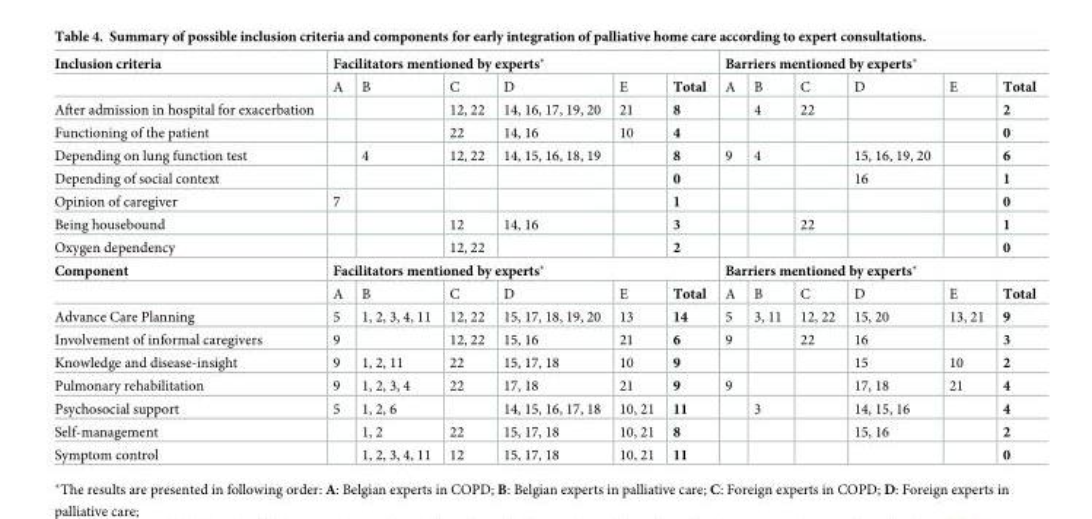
<table><tbody><tr><td rowspan="2">Inclusion criteria</td><td colspan="6">Facilitators mentioned by experts*</td><td colspan="6">Barriers mentioned by experts*</td></tr><tr><td>A</td><td>B</td><td>C</td><td>D</td><td>E</td><td>Total</td><td>A</td><td>B</td><td>C</td><td>D</td><td>E</td><td>Total</td></tr><tr><td>After admission in hospital for exacerbation</td><td></td><td></td><td>12, 22</td><td>14, 16, 17, 19, 20</td><td>21</td><td>8</td><td></td><td>4</td><td>22</td><td></td><td></td><td>2</td></tr><tr><td>Functioning of the patient</td><td></td><td></td><td>22</td><td>14, 16</td><td>10</td><td>4</td><td></td><td></td><td></td><td></td><td></td><td>0</td></tr><tr><td>Depending on lung function test</td><td></td><td>4</td><td>12, 22</td><td>14, 15, 16, 18, 19</td><td></td><td>8</td><td>9</td><td>4</td><td></td><td>15, 16, 19, 20</td><td></td><td>6</td></tr><tr><td>Depending of social context</td><td></td><td></td><td></td><td></td><td></td><td>0</td><td></td><td></td><td></td><td>16</td><td></td><td>1</td></tr><tr><td>Opinion of caregiver</td><td>7</td><td></td><td></td><td></td><td></td><td>1</td><td></td><td></td><td></td><td></td><td></td><td>0</td></tr><tr><td>Being housebound</td><td></td><td></td><td>12</td><td>14, 16</td><td></td><td>3</td><td></td><td></td><td>22</td><td></td><td></td><td>1</td></tr><tr><td>Oxygen dependency</td><td></td><td></td><td>12, 22</td><td></td><td></td><td>2</td><td></td><td></td><td></td><td></td><td></td><td>0</td></tr><tr><td rowspan="2">Component</td><td colspan="6">Facilitators mentioned by experts*</td><td colspan="6">Barriers mentioned by experts*</td></tr><tr><td>A</td><td>B</td><td>C</td><td>D</td><td>E</td><td>Total</td><td>A</td><td>B</td><td>C</td><td>D</td><td>E</td><td>Total</td></tr><tr><td>Advance Care Planning</td><td>5</td><td>1, 2, 3, 4, 11</td><td>12, 22</td><td>15, 17, 18, 19, 20</td><td>13</td><td>14</td><td>5</td><td>3, 11</td><td>12, 22</td><td>15, 20</td><td>13, 21</td><td>9</td></tr><tr><td>Involvement of informal caregivers</td><td>9</td><td></td><td>12, 22</td><td>15, 16</td><td>21</td><td>6</td><td>9</td><td></td><td>22</td><td>16</td><td></td><td>3</td></tr><tr><td>Knowledge and disease-insight</td><td>9</td><td>1, 2, 11</td><td>22</td><td>15, 17, 18</td><td>10</td><td>9</td><td></td><td></td><td></td><td>15</td><td>10</td><td>2</td></tr><tr><td>Pulmonary rehabilitation</td><td>9</td><td>1, 2, 3, 4</td><td>22</td><td>17, 18</td><td>21</td><td>9</td><td>9</td><td></td><td></td><td>17, 18</td><td>21</td><td>4</td></tr><tr><td>Psychosocial support</td><td>5</td><td>1, 2, 6</td><td></td><td>14, 15, 16, 17, 18</td><td>10, 21</td><td>11</td><td></td><td>3</td><td></td><td>14, 15, 16</td><td></td><td>4</td></tr><tr><td>Self-management</td><td></td><td>1, 2</td><td>22</td><td>15, 17, 18</td><td>10, 21</td><td>8</td><td></td><td></td><td></td><td>15, 16</td><td></td><td>2</td></tr><tr><td>Symptom control</td><td></td><td>1, 2, 3, 4, 11</td><td>12</td><td>15, 17, 18</td><td>10, 21</td><td>11</td><td></td><td></td><td></td><td></td><td></td><td>0</td></tr></tbody></table>